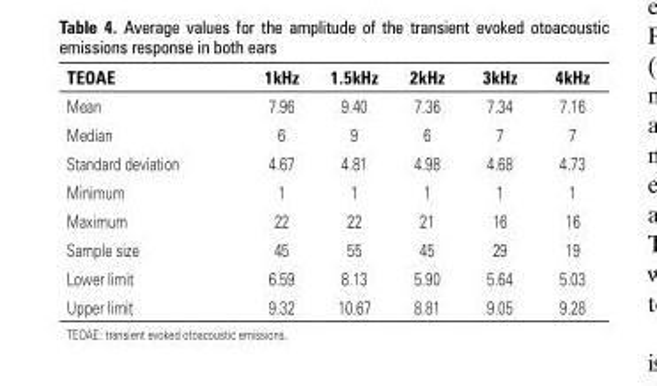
<table><thead><tr><td>TEOAE</td><td>1kHz</td><td>1.5kHz</td><td>2kHz</td><td>3kHz</td><td>4kHz</td></tr></thead><tbody><tr><td>Mean</td><td>7.96</td><td>9.40</td><td>7.36</td><td>7.34</td><td>7.16</td></tr><tr><td>Median</td><td>6</td><td>9</td><td>6</td><td>7</td><td>7</td></tr><tr><td>Standard deviation</td><td>4.67</td><td>4.81</td><td>4.98</td><td>4.68</td><td>4.73</td></tr><tr><td>Minimum</td><td>1</td><td>1</td><td>1</td><td>1</td><td>1</td></tr><tr><td>Maximum</td><td>22</td><td>22</td><td>21</td><td>16</td><td>16</td></tr><tr><td>Sample size</td><td>45</td><td>55</td><td>45</td><td>29</td><td>19</td></tr><tr><td>Lower limit</td><td>6.59</td><td>8.13</td><td>5.90</td><td>5.64</td><td>5.03</td></tr><tr><td>Upper limit</td><td>9.32</td><td>10.67</td><td>8.81</td><td>9.05</td><td>9.28</td></tr></tbody></table>